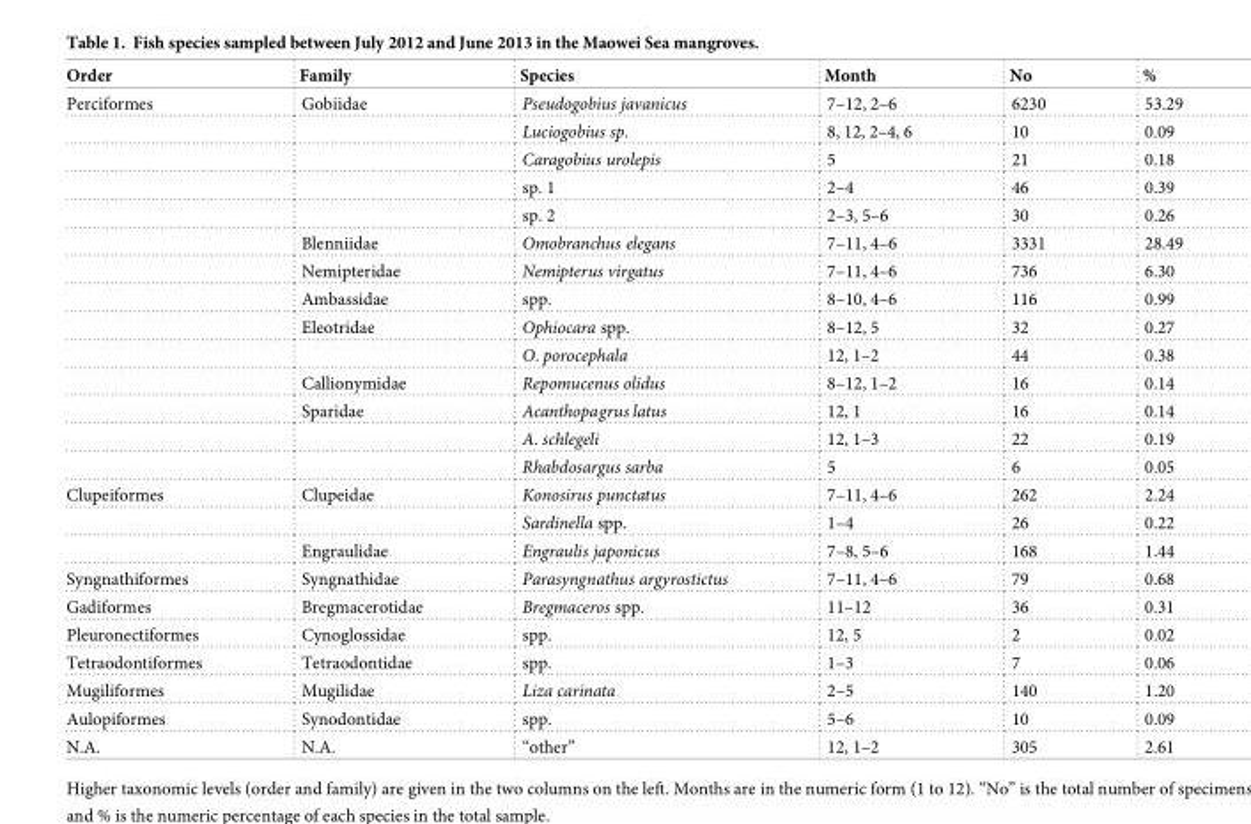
<table><thead><tr><td>Order</td><td>Family</td><td>Species</td><td>Month</td><td>No</td><td>%</td></tr></thead><tbody><tr><td rowspan="14">Perciformes</td><td>Gobiidae</td><td>Pseudogobius javanicus</td><td>7–12, 2–6</td><td>6230</td><td>53.29</td></tr><tr><td></td><td>Luciogobius sp.</td><td>8, 12, 2–4, 6</td><td>10</td><td>0.09</td></tr><tr><td></td><td>Caragobius urolepis</td><td>5</td><td>21</td><td>0.18</td></tr><tr><td></td><td>sp. 1</td><td>2–4</td><td>46</td><td>0.39</td></tr><tr><td></td><td>sp. 2</td><td>2–3, 5–6</td><td>30</td><td>0.26</td></tr><tr><td>Blenniidae</td><td>Omobranchus elegans</td><td>7–11, 4–6</td><td>3331</td><td>28.49</td></tr><tr><td>Nemipteridae</td><td>Nemipterus virgatus</td><td>7–11, 4–6</td><td>736</td><td>6.30</td></tr><tr><td>Ambassidae</td><td>spp.</td><td>8–10, 4–6</td><td>116</td><td>0.99</td></tr><tr><td>Eleotridae</td><td>Ophiocara spp.</td><td>8–12, 5</td><td>32</td><td>0.27</td></tr><tr><td></td><td>O. porocephala</td><td>12, 1–2</td><td>44</td><td>0.38</td></tr><tr><td>Callionymidae</td><td>Repomucenus olidus</td><td>8–12, 1–2</td><td>16</td><td>0.14</td></tr><tr><td>Sparidae</td><td>Acanthopagrus latus</td><td>12, 1</td><td>16</td><td>0.14</td></tr><tr><td></td><td>A. schlegeli</td><td>12, 1–3</td><td>22</td><td>0.19</td></tr><tr><td></td><td>Rhabdosargus sarba</td><td>5</td><td>6</td><td>0.05</td></tr><tr><td rowspan="3">Clupeiformes</td><td>Clupeidae</td><td>Konosirus punctatus</td><td>7–11, 4–6</td><td>262</td><td>2.24</td></tr><tr><td></td><td>Sardinella spp.</td><td>1–4</td><td>26</td><td>0.22</td></tr><tr><td>Engraulidae</td><td>Engraulis japonicus</td><td>7–8, 5–6</td><td>168</td><td>1.44</td></tr><tr><td>Syngnathiformes</td><td>Syngnathidae</td><td>Parasyngnathus argyrostictus</td><td>7–11, 4–6</td><td>79</td><td>0.68</td></tr><tr><td>Gadiformes</td><td>Bregmacerotidae</td><td>Bregmaceros spp.</td><td>11–12</td><td>36</td><td>0.31</td></tr><tr><td>Pleuronectiformes</td><td>Cynoglossidae</td><td>spp.</td><td>12, 5</td><td>2</td><td>0.02</td></tr><tr><td>Tetraodontiformes</td><td>Tetraodontidae</td><td>spp.</td><td>1–3</td><td>7</td><td>0.06</td></tr><tr><td>Mugiliformes</td><td>Mugilidae</td><td>Liza carinata</td><td>2–5</td><td>140</td><td>1.20</td></tr><tr><td>Aulopiformes</td><td>Synodontidae</td><td>spp.</td><td>5–6</td><td>10</td><td>0.09</td></tr><tr><td>N.A.</td><td>N.A.</td><td>“other”</td><td>12, 1–2</td><td>305</td><td>2.61</td></tr></tbody></table>